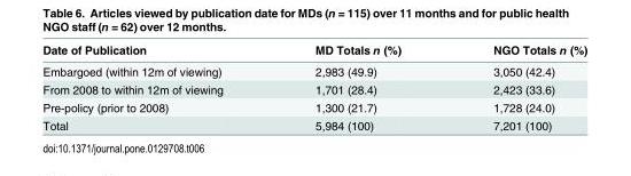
<table><thead><tr><td>Date of Publication</td><td>MD Totals n (%)</td><td>NGO Totals n (%)</td></tr></thead><tbody><tr><td>Embargoed (within 12m of viewing)</td><td>2,983 (49.9)</td><td>3,050 (42.4)</td></tr><tr><td>From 2008 to within 12m of viewing</td><td>1,701 (28.4)</td><td>2,423 (33.6)</td></tr><tr><td>Pre-policy (prior to 2008)</td><td>1,300 (21.7)</td><td>1,728 (24.0)</td></tr><tr><td>Total</td><td>5,984 (100)</td><td>7,201 (100)</td></tr></tbody></table>